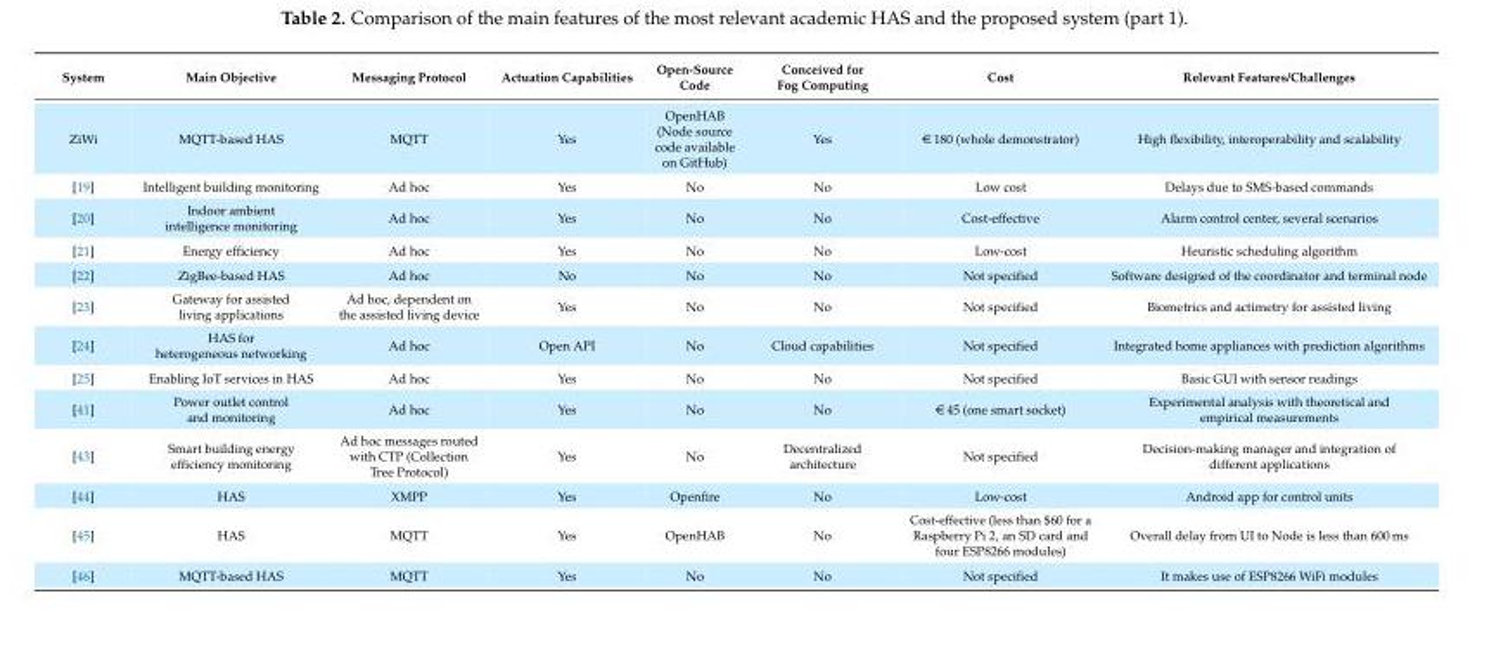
<table><thead><tr><td>System</td><td>Main Objective</td><td>Messaging Protocol</td><td>Actuation Capabilities</td><td>Open-Source Code</td><td>Conceived for Fog Computing</td><td>Cost</td><td>Relevant Features/Challenges</td></tr></thead><tbody><tr><td>ZiWi</td><td>MQTT-based HAS</td><td>MQTT</td><td>Yes</td><td>OpenHAB (Node source code available on GitHub)</td><td>Yes</td><td>e 180 (whole demonstrator)</td><td>High flexibility, interoperability and scalability</td></tr><tr><td>[19]</td><td>Intelligent building monitoring</td><td>Ad hoc</td><td>Yes</td><td>No</td><td>No</td><td>Low cost</td><td>Delays due to SMS-based commands</td></tr><tr><td>[20]</td><td>Indoor ambient intelligence monitoring</td><td>Ad hoc</td><td>Yes</td><td>No</td><td>No</td><td>Cost-effective</td><td>Alarm control center, several scenarios</td></tr><tr><td>[21]</td><td>Energy efficiency</td><td>Ad hoc</td><td>Yes</td><td>No</td><td>No</td><td>Low-cost</td><td>Heuristic scheduling algorithm</td></tr><tr><td>[22]</td><td>ZigBee-based HAS</td><td>Ad hoc</td><td>No</td><td>No</td><td>No</td><td>Not specified</td><td>Software designed of the coordinator and terminal node</td></tr><tr><td>[23]</td><td>Gateway for assisted living applications</td><td>Ad hoc, dependent on the assisted living device</td><td>Yes</td><td>No</td><td>No</td><td>Not specified</td><td>Biometrics and actimetry for assisted living</td></tr><tr><td>[24]</td><td>HAS for heterogeneous networking</td><td>Ad hoc</td><td>Open API</td><td>No</td><td>Cloud capabilities</td><td>Not specified</td><td>Integrated home appliances with prediction algorithms</td></tr><tr><td>[25]</td><td>Enabling IoT services in HAS</td><td>Ad hoc</td><td>Yes</td><td>No</td><td>No</td><td>Not specified</td><td>Basic GUI with sensor readings</td></tr><tr><td>[41]</td><td>Power outlet control and monitoring</td><td>Ad hoc</td><td>Yes</td><td>No</td><td>No</td><td>e 45 (one smart socket)</td><td>Experimental analysis with theoretical and empirical measurements</td></tr><tr><td>[43]</td><td>Smart building energy efficiency monitoring</td><td>Ad hoc messages routed with CTP (Collection Tree Protocol)</td><td>Yes</td><td>No</td><td>Decentralized architecture</td><td>Not specified</td><td>Decision-making manager and integration of different applications</td></tr><tr><td>[44]</td><td>HAS</td><td>XMPP</td><td>Yes</td><td>Openfire</td><td>No</td><td>Low-cost</td><td>Android app for control units</td></tr><tr><td>[45]</td><td>HAS</td><td>MQTT</td><td>Yes</td><td>OpenHAB</td><td>No</td><td>Cost-effective (less than $60 for a Raspberry Pi 2, an SD card and four ESP8266 modules)</td><td>Overall delay from UI to Node is less than 600 ms</td></tr><tr><td>[46]</td><td>MQTT-based HAS</td><td>MQTT</td><td>Yes</td><td>No</td><td>No</td><td>Not specified</td><td>It makes use of ESP8266 WiFi modules</td></tr></tbody></table>